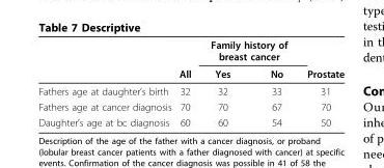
<table><thead><tr><td rowspan="2"></td><td rowspan="2">All</td><td colspan="2">Family history of breast cancer</td><td rowspan="2">Prostate</td></tr><tr><td>Yes</td><td>No</td></tr></thead><tbody><tr><td>Fathers age at daughter’s birth</td><td>32</td><td>32</td><td>33</td><td>31</td></tr><tr><td>Fathers age at cancer diagnosis</td><td>70</td><td>70</td><td>67</td><td>70</td></tr><tr><td>Daughter’s age at bc diagnosis</td><td>60</td><td>60</td><td>54</td><td>50</td></tr></tbody></table>